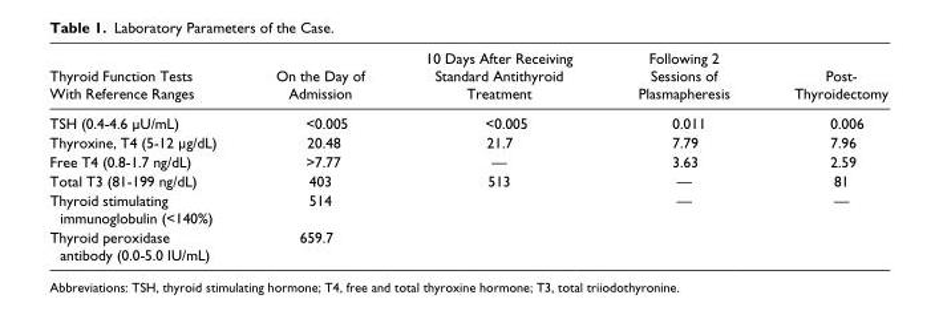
<table><thead><tr><td>Thyroid Function Tests With Reference Ranges</td><td>On the Day of Admission</td><td>10 Days After Receiving Standard Antithyroid Treatment</td><td>Following 2 Sessions of Plasmapheresis</td><td>Post- Thyroidectomy</td></tr></thead><tbody><tr><td>TSH (0.4-4.6 µU/mL)</td><td>&lt;0.005</td><td>&lt;0.005</td><td>0.011</td><td>0.006</td></tr><tr><td>Thyroxine, T4 (5-12 µg/dL)</td><td>20.48</td><td>21.7</td><td>7.79</td><td>7.96</td></tr><tr><td>Free T4 (0.8-1.7 ng/dL)</td><td>&gt;7.77</td><td>—</td><td>3.63</td><td>2.59</td></tr><tr><td>Total T3 (81-199 ng/dL)</td><td>403</td><td>513</td><td>—</td><td>81</td></tr><tr><td>Thyroid stimulating immunoglobulin (&lt;140%)</td><td>514</td><td></td><td>—</td><td>—</td></tr><tr><td>Thyroid peroxidase antibody (0.0-5.0 IU/mL)</td><td>659.7</td><td></td><td></td><td></td></tr></tbody></table>